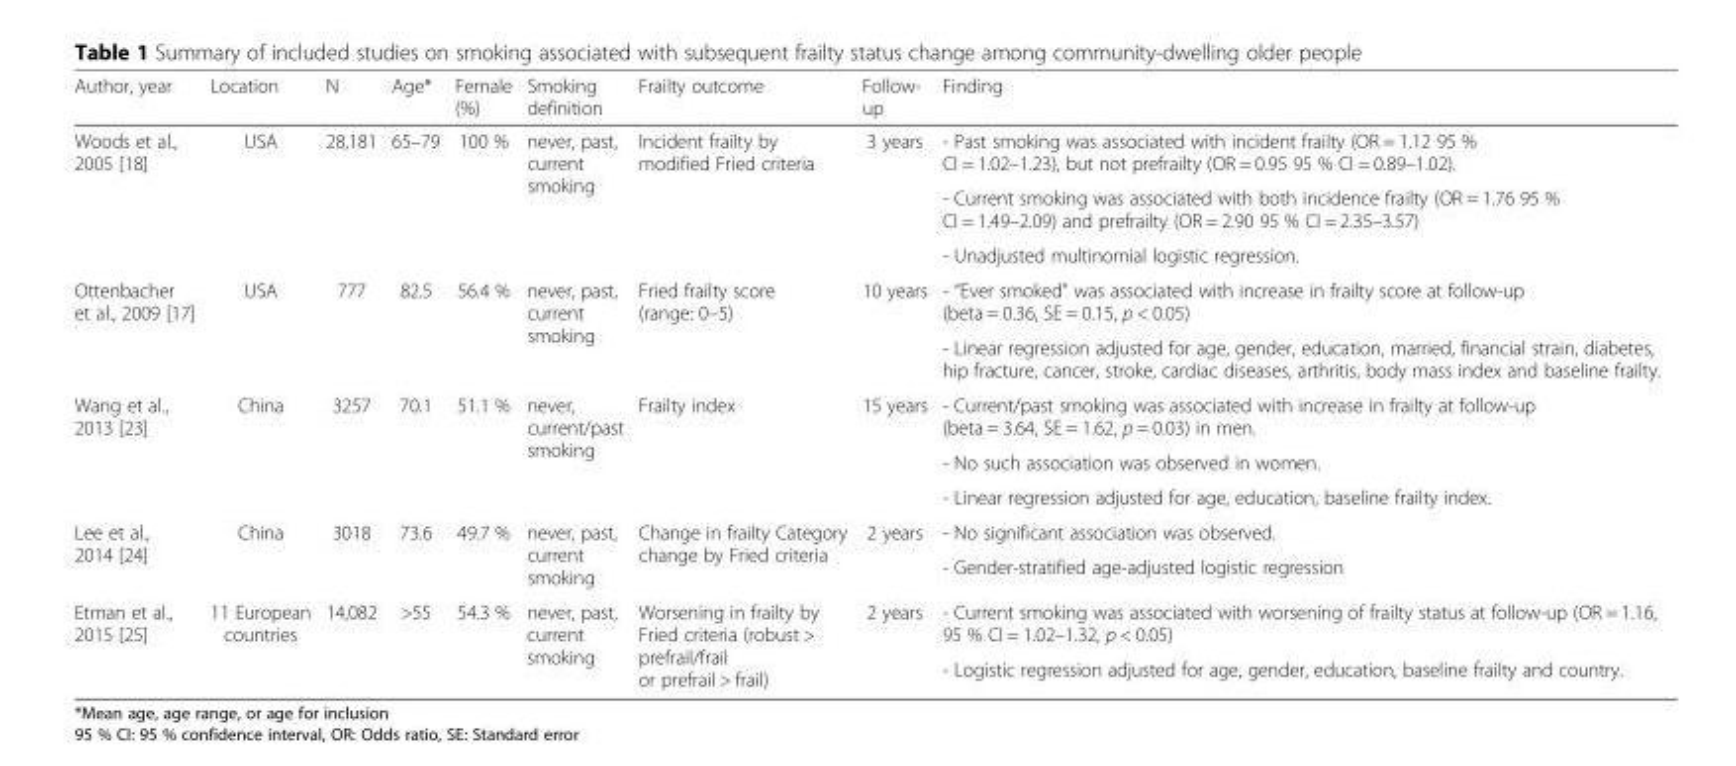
<table><thead><tr><td>Author, year</td><td>Location</td><td>N</td><td>Age*</td><td>Female (%)</td><td>Smoking definition</td><td>Frailty outcome</td><td>Follow- up</td><td>Finding</td></tr></thead><tbody><tr><td rowspan="3">Woods et al., 2005 [18]</td><td rowspan="3">USA</td><td rowspan="3">28,181</td><td rowspan="3">65–79</td><td rowspan="3">100 %</td><td rowspan="3">never, past, current smoking</td><td rowspan="3">Incident frailty by modified Fried criteria</td><td rowspan="3">3 years</td><td>- Past smoking was associated with incident frailty (OR = 1.12 95 % CI = 1.02–1.23), but not prefrailty (OR = 0.95 95 % CI = 0.89–1.02).</td></tr><tr><td>- Current smoking was associated with both incidence frailty (OR = 1.76 95 % CI = 1.49–2.09) and prefrailty (OR = 2.90 95 % CI = 2.35–3.57)</td></tr><tr><td>- Unadjusted multinomial logistic regression.</td></tr><tr><td rowspan="2">Ottenbacher et al., 2009 [17]</td><td rowspan="2">USA</td><td rowspan="2">777</td><td rowspan="2">82.5</td><td rowspan="2">56.4 %</td><td rowspan="2">never, past, current smoking</td><td rowspan="2">Fried frailty score (range: 0–5)</td><td rowspan="2">10 years</td><td>- “Ever smoked” was associated with increase in frailty score at follow-up (beta = 0.36, SE = 0.15, p &lt; 0.05)</td></tr><tr><td>- Linear regression adjusted for age, gender, education, married, financial strain, diabetes, hip fracture, cancer, stroke, cardiac diseases, arthritis, body mass index and baseline frailty.</td></tr><tr><td rowspan="3">Wang et al., 2013 [23]</td><td rowspan="3">China</td><td rowspan="3">3257</td><td rowspan="3">70.1</td><td rowspan="3">51.1 %</td><td rowspan="3">never, current/past smoking</td><td rowspan="3">Frailty index</td><td rowspan="3">15 years</td><td>- Current/past smoking was associated with increase in frailty at follow-up (beta = 3.64, SE = 1.62, p = 0.03) in men.</td></tr><tr><td>- No such association was observed in women.</td></tr><tr><td>- Linear regression adjusted for age, education, baseline frailty index.</td></tr><tr><td rowspan="2">Lee et al., 2014 [24]</td><td rowspan="2">China</td><td rowspan="2">3018</td><td rowspan="2">73.6</td><td rowspan="2">49.7 %</td><td rowspan="2">never, past, current smoking</td><td rowspan="2">Change in frailty Category change by Fried criteria</td><td rowspan="2">2 years</td><td>- No significant association was observed.</td></tr><tr><td>- Gender-stratified age-adjusted logistic regression</td></tr><tr><td rowspan="2">Etman et al., 2015 [25]</td><td rowspan="2">11 European countries</td><td rowspan="2">14,082</td><td rowspan="2">&gt;55</td><td rowspan="2">54.3 %</td><td rowspan="2">never, past, current smoking</td><td rowspan="2">Worsening in frailty by Fried criteria (robust &gt; prefrail/frail or prefrail &gt; frail)</td><td rowspan="2">2 years</td><td>- Current smoking was associated with worsening of frailty status at follow-up (OR = 1.16, 95 % CI = 1.02–1.32, p &lt; 0.05)</td></tr><tr><td>- Logistic regression adjusted for age, gender, education, baseline frailty and country.</td></tr></tbody></table>